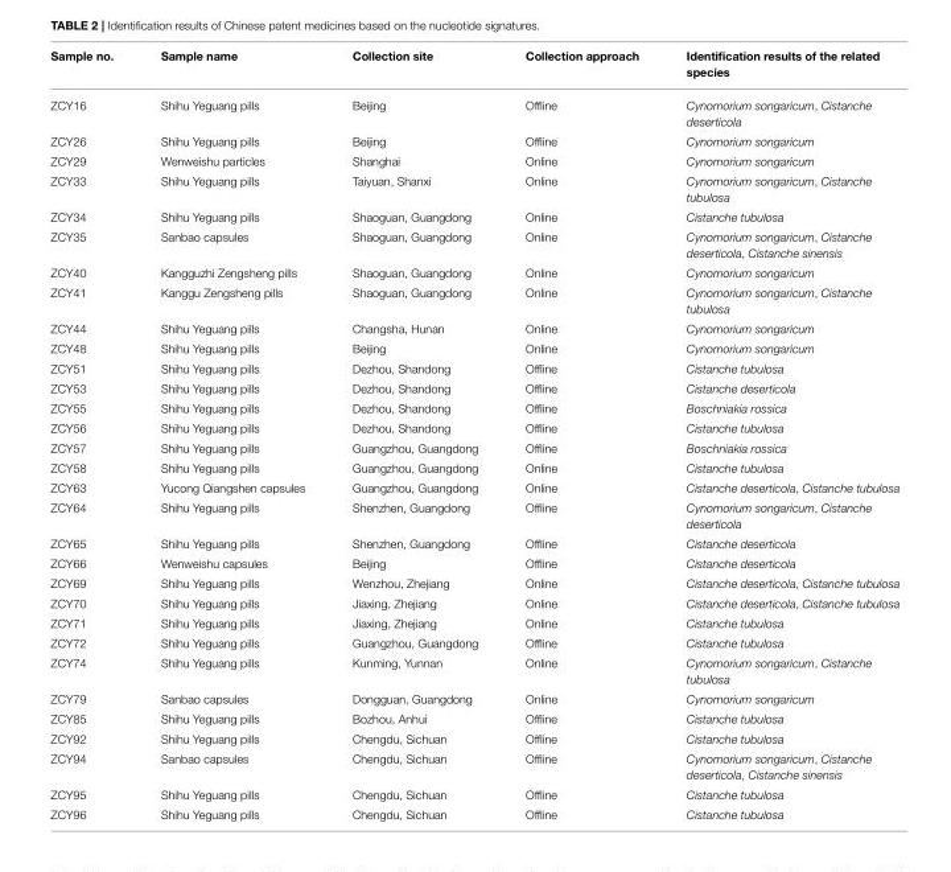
<table><thead><tr><td>Sample no.</td><td>Sample name</td><td>Collection site</td><td>Collection approach</td><td>Identification results of the related species</td></tr></thead><tbody><tr><td>ZCY16</td><td>Shihu Yeguang pills</td><td>Beijing</td><td>Offline</td><td>Cynomorium songaricum, Cistanche deserticola</td></tr><tr><td>ZCY26</td><td>Shihu Yeguang pills</td><td>Beijing</td><td>Offline</td><td>Cynomorium songaricum</td></tr><tr><td>ZCY29</td><td>Wenweishu particles</td><td>Shanghai</td><td>Online</td><td>Cynomorium songaricum</td></tr><tr><td>ZCY33</td><td>Shihu Yeguang pills</td><td>Taiyuan, Shanxi</td><td>Online</td><td>Cynomorium songaricum, Cistanche tubulosa</td></tr><tr><td>ZCY34</td><td>Shihu Yeguang pills</td><td>Shaoguan, Guangdong</td><td>Online</td><td>Cistanche tubulosa</td></tr><tr><td>ZCY35</td><td>Sanbao capsules</td><td>Shaoguan, Guangdong</td><td>Online</td><td>Cynomorium songaricum, Cistanche deserticola, Cistanche sinensis</td></tr><tr><td>ZCY40</td><td>Kangguzhi Zengsheng pills</td><td>Shaoguan, Guangdong</td><td>Online</td><td>Cynomorium songaricum</td></tr><tr><td>ZCY41</td><td>Kanggu Zengsheng pills</td><td>Shaoguan, Guangdong</td><td>Online</td><td>Cynomorium songaricum, Cistanche tubulosa</td></tr><tr><td>ZCY44</td><td>Shihu Yeguang pills</td><td>Changsha, Hunan</td><td>Online</td><td>Cynomorium songaricum</td></tr><tr><td>ZCY48</td><td>Shihu Yeguang pills</td><td>Beijing</td><td>Online</td><td>Cynomorium songaricum</td></tr><tr><td>ZCY51</td><td>Shihu Yeguang pills</td><td>Dezhou, Shandong</td><td>Offline</td><td>Cistanche tubulosa</td></tr><tr><td>ZCY53</td><td>Shihu Yeguang pills</td><td>Dezhou, Shandong</td><td>Offline</td><td>Cistanche deserticola</td></tr><tr><td>ZCY55</td><td>Shihu Yeguang pills</td><td>Dezhou, Shandong</td><td>Offline</td><td>Boschniakia rossica</td></tr><tr><td>ZCY56</td><td>Shihu Yeguang pills</td><td>Dezhou, Shandong</td><td>Offline</td><td>Cistanche tubulosa</td></tr><tr><td>ZCY57</td><td>Shihu Yeguang pills</td><td>Guangzhou, Guangdong</td><td>Offline</td><td>Boschniakia rossica</td></tr><tr><td>ZCY58</td><td>Shihu Yeguang pills</td><td>Guangzhou, Guangdong</td><td>Online</td><td>Cistanche tubulosa</td></tr><tr><td>ZCY63</td><td>Yucong Qiangshen capsules</td><td>Guangzhou, Guangdong</td><td>Online</td><td>Cistanche deserticola, Cistanche tubulosa</td></tr><tr><td>ZCY64</td><td>Shihu Yeguang pills</td><td>Shenzhen, Guangdong</td><td>Offline</td><td>Cynomorium songaricum, Cistanche deserticola</td></tr><tr><td>ZCY65</td><td>Shihu Yeguang pills</td><td>Shenzhen, Guangdong</td><td>Offline</td><td>Cistanche deserticola</td></tr><tr><td>ZCY66</td><td>Wenweishu capsules</td><td>Beijing</td><td>Offline</td><td>Cistanche deserticola</td></tr><tr><td>ZCY69</td><td>Shihu Yeguang pills</td><td>Wenzhou, Zhejiang</td><td>Online</td><td>Cistanche deserticola, Cistanche tubulosa</td></tr><tr><td>ZCY70</td><td>Shihu Yeguang pills</td><td>Jiaxing, Zhejiang</td><td>Online</td><td>Cistanche deserticola, Cistanche tubulosa</td></tr><tr><td>ZCY71</td><td>Shihu Yeguang pills</td><td>Jiaxing, Zhejiang</td><td>Online</td><td>Cistanche tubulosa</td></tr><tr><td>ZCY72</td><td>Shihu Yeguang pills</td><td>Guangzhou, Guangdong</td><td>Offline</td><td>Cistanche tubulosa</td></tr><tr><td>ZCY74</td><td>Shihu Yeguang pills</td><td>Kunming, Yunnan</td><td>Online</td><td>Cynomorium songaricum, Cistanche tubulosa</td></tr><tr><td>ZCY79</td><td>Sanbao capsules</td><td>Dongguan, Guangdong</td><td>Online</td><td>Cynomorium songaricum</td></tr><tr><td>ZCY85</td><td>Shihu Yeguang pills</td><td>Bozhou, Anhui</td><td>Offline</td><td>Cistanche tubulosa</td></tr><tr><td>ZCY92</td><td>Shihu Yeguang pills</td><td>Chengdu, Sichuan</td><td>Offline</td><td>Cistanche tubulosa</td></tr><tr><td>ZCY94</td><td>Sanbao capsules</td><td>Chengdu, Sichuan</td><td>Offline</td><td>Cynomorium songaricum, Cistanche deserticola, Cistanche sinensis</td></tr><tr><td>ZCY95</td><td>Shihu Yeguang pills</td><td>Chengdu, Sichuan</td><td>Offline</td><td>Cistanche tubulosa</td></tr><tr><td>ZCY96</td><td>Shihu Yeguang pills</td><td>Chengdu, Sichuan</td><td>Offline</td><td>Cistanche tubulosa</td></tr></tbody></table>